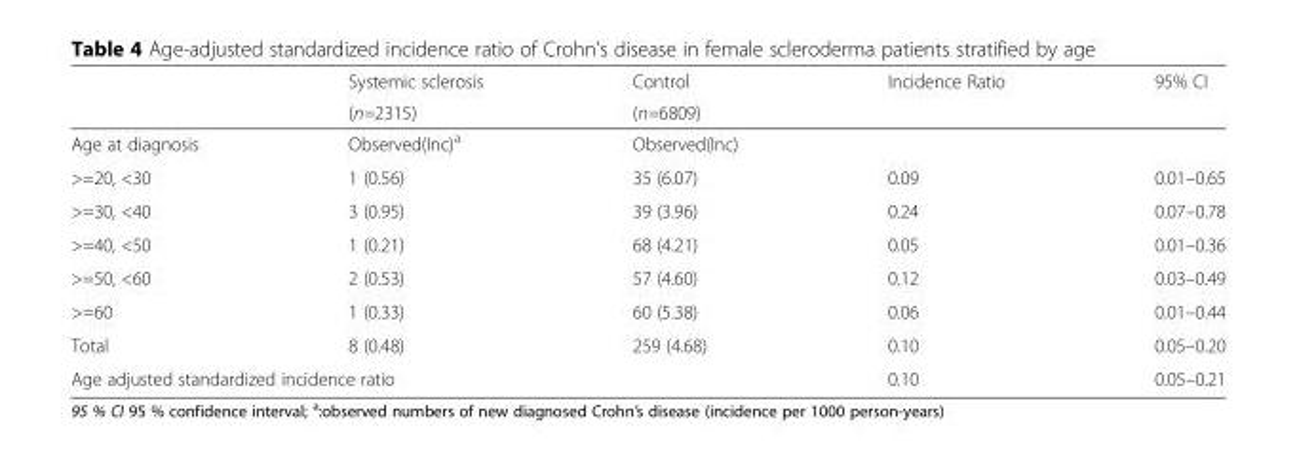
<table><thead><tr><td rowspan="2"></td><td rowspan="2">Systemic sclerosis (n=2315)</td><td rowspan="2">Control (n=6809)</td><td rowspan="2">Incidence Ratio</td><td rowspan="2">95% CI</td></tr><tr></tr></thead><tbody><tr><td>Age at diagnosis</td><td>Observed(Inc)<sup>a</sup></td><td>Observed(Inc)</td><td></td><td></td></tr><tr><td>&gt;=20, &lt;30</td><td>1 (0.56)</td><td>35 (6.07)</td><td>0.09</td><td>0.01–0.65</td></tr><tr><td>&gt;=30, &lt;40</td><td>3 (0.95)</td><td>39 (3.96)</td><td>0.24</td><td>0.07–0.78</td></tr><tr><td>&gt;=40, &lt;50</td><td>1 (0.21)</td><td>68 (4.21)</td><td>0.05</td><td>0.01–0.36</td></tr><tr><td>&gt;=50, &lt;60</td><td>2 (0.53)</td><td>57 (4.60)</td><td>0.12</td><td>0.03–0.49</td></tr><tr><td>&gt;=60</td><td>1 (0.33)</td><td>60 (5.38)</td><td>0.06</td><td>0.01–0.44</td></tr><tr><td>Total</td><td>8 (0.48)</td><td>259 (4.68)</td><td>0.10</td><td>0.05–0.20</td></tr><tr><td colspan="3">Age adjusted standardized incidence ratio</td><td>0.10</td><td>0.05–0.21</td></tr></tbody></table>